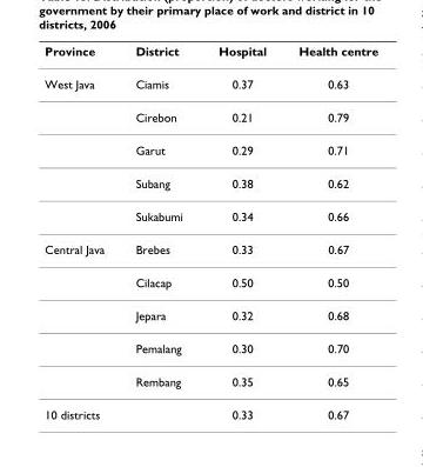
<table><thead><tr><td>Province</td><td>District</td><td>Hospital</td><td>Health centre</td></tr></thead><tbody><tr><td rowspan="5">West Java</td><td>Ciamis</td><td>0.37</td><td>0.63</td></tr><tr><td>Cirebon</td><td>0.21</td><td>0.79</td></tr><tr><td>Garut</td><td>0.29</td><td>0.71</td></tr><tr><td>Subang</td><td>0.38</td><td>0.62</td></tr><tr><td>Sukabumi</td><td>0.34</td><td>0.66</td></tr><tr><td rowspan="5">Central Java</td><td>Brebes</td><td>0.33</td><td>0.67</td></tr><tr><td>Cilacap</td><td>0.50</td><td>0.50</td></tr><tr><td>Jepara</td><td>0.32</td><td>0.68</td></tr><tr><td>Pemalang</td><td>0.30</td><td>0.70</td></tr><tr><td>Rembang</td><td>0.35</td><td>0.65</td></tr><tr><td>10 districts</td><td></td><td>0.33</td><td>0.67</td></tr></tbody></table>